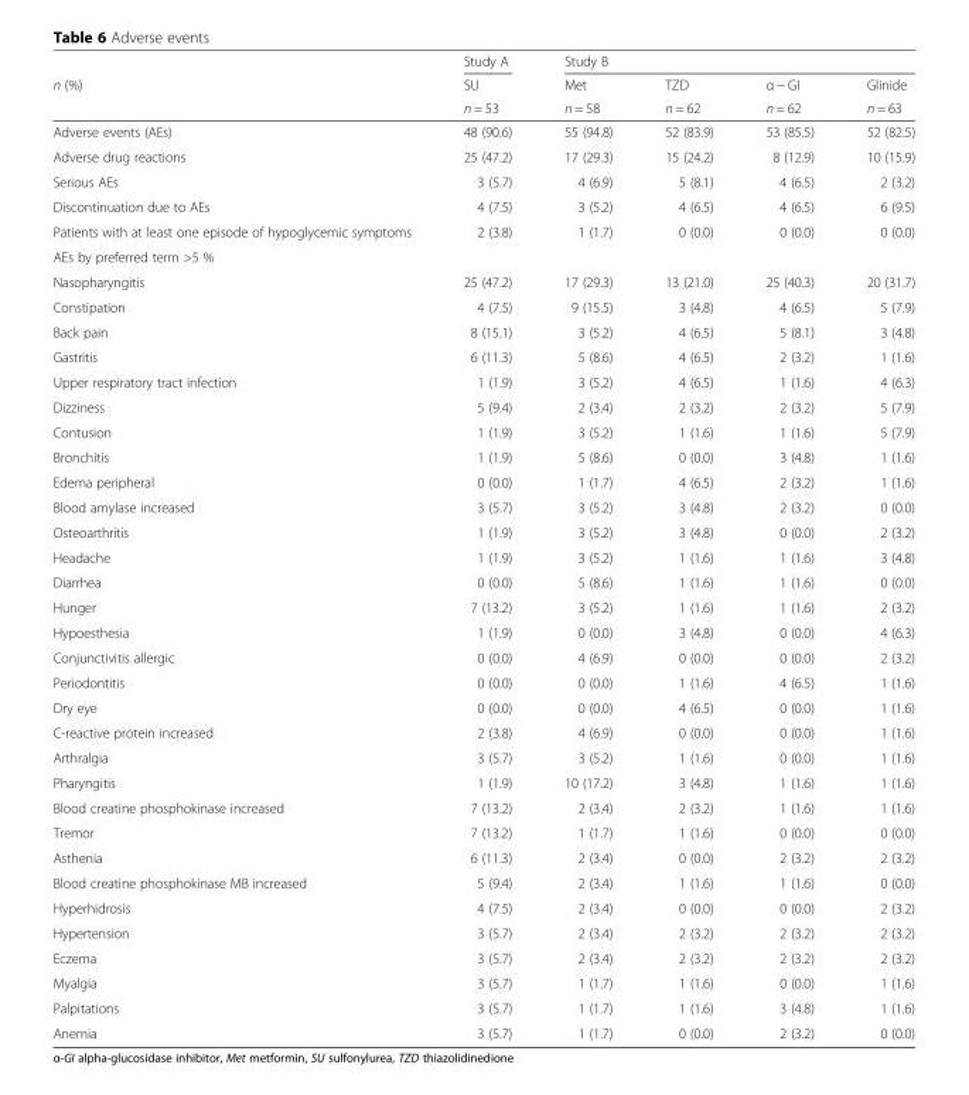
<table><thead><tr><td rowspan="3">n (%)</td><td rowspan="3">Study A SU n = 53</td><td colspan="4">Study B</td></tr><tr><td rowspan="2">Met n = 58</td><td rowspan="2">TZD n = 62</td><td rowspan="2">α − GI n = 62</td><td rowspan="2">Glinide n = 63</td></tr><tr></tr></thead><tbody><tr><td>Adverse events (AEs)</td><td>48 (90.6)</td><td>55 (94.8)</td><td>52 (83.9)</td><td>53 (85.5)</td><td>52 (82.5)</td></tr><tr><td>Adverse drug reactions</td><td>25 (47.2)</td><td>17 (29.3)</td><td>15 (24.2)</td><td>8 (12.9)</td><td>10 (15.9)</td></tr><tr><td>Serious AEs</td><td>3 (5.7)</td><td>4 (6.9)</td><td>5 (8.1)</td><td>4 (6.5)</td><td>2 (3.2)</td></tr><tr><td>Discontinuation due to AEs</td><td>4 (7.5)</td><td>3 (5.2)</td><td>4 (6.5)</td><td>4 (6.5)</td><td>6 (9.5)</td></tr><tr><td>Patients with at least one episode of hypoglycemic symptoms</td><td>2 (3.8)</td><td>1 (1.7)</td><td>0 (0.0)</td><td>0 (0.0)</td><td>0 (0.0)</td></tr><tr><td colspan="6">AEs by preferred term &gt;5 %</td></tr><tr><td>Nasopharyngitis</td><td>25 (47.2)</td><td>17 (29.3)</td><td>13 (21.0)</td><td>25 (40.3)</td><td>20 (31.7)</td></tr><tr><td>Constipation</td><td>4 (7.5)</td><td>9 (15.5)</td><td>3 (4.8)</td><td>4 (6.5)</td><td>5 (7.9)</td></tr><tr><td>Back pain</td><td>8 (15.1)</td><td>3 (5.2)</td><td>4 (6.5)</td><td>5 (8.1)</td><td>3 (4.8)</td></tr><tr><td>Gastritis</td><td>6 (11.3)</td><td>5 (8.6)</td><td>4 (6.5)</td><td>2 (3.2)</td><td>1 (1.6)</td></tr><tr><td>Upper respiratory tract infection</td><td>1 (1.9)</td><td>3 (5.2)</td><td>4 (6.5)</td><td>1 (1.6)</td><td>4 (6.3)</td></tr><tr><td>Dizziness</td><td>5 (9.4)</td><td>2 (3.4)</td><td>2 (3.2)</td><td>2 (3.2)</td><td>5 (7.9)</td></tr><tr><td>Contusion</td><td>1 (1.9)</td><td>3 (5.2)</td><td>1 (1.6)</td><td>1 (1.6)</td><td>5 (7.9)</td></tr><tr><td>Bronchitis</td><td>1 (1.9)</td><td>5 (8.6)</td><td>0 (0.0)</td><td>3 (4.8)</td><td>1 (1.6)</td></tr><tr><td>Edema peripheral</td><td>0 (0.0)</td><td>1 (1.7)</td><td>4 (6.5)</td><td>2 (3.2)</td><td>1 (1.6)</td></tr><tr><td>Blood amylase increased</td><td>3 (5.7)</td><td>3 (5.2)</td><td>3 (4.8)</td><td>2 (3.2)</td><td>0 (0.0)</td></tr><tr><td>Osteoarthritis</td><td>1 (1.9)</td><td>3 (5.2)</td><td>3 (4.8)</td><td>0 (0.0)</td><td>2 (3.2)</td></tr><tr><td>Headache</td><td>1 (1.9)</td><td>3 (5.2)</td><td>1 (1.6)</td><td>1 (1.6)</td><td>3 (4.8)</td></tr><tr><td>Diarrhea</td><td>0 (0.0)</td><td>5 (8.6)</td><td>1 (1.6)</td><td>1 (1.6)</td><td>0 (0.0)</td></tr><tr><td>Hunger</td><td>7 (13.2)</td><td>3 (5.2)</td><td>1 (1.6)</td><td>1 (1.6)</td><td>2 (3.2)</td></tr><tr><td>Hypoesthesia</td><td>1 (1.9)</td><td>0 (0.0)</td><td>3 (4.8)</td><td>0 (0.0)</td><td>4 (6.3)</td></tr><tr><td>Conjunctivitis allergic</td><td>0 (0.0)</td><td>4 (6.9)</td><td>0 (0.0)</td><td>0 (0.0)</td><td>2 (3.2)</td></tr><tr><td>Periodontitis</td><td>0 (0.0)</td><td>0 (0.0)</td><td>1 (1.6)</td><td>4 (6.5)</td><td>1 (1.6)</td></tr><tr><td>Dry eye</td><td>0 (0.0)</td><td>0 (0.0)</td><td>4 (6.5)</td><td>0 (0.0)</td><td>1 (1.6)</td></tr><tr><td>C-reactive protein increased</td><td>2 (3.8)</td><td>4 (6.9)</td><td>0 (0.0)</td><td>0 (0.0)</td><td>1 (1.6)</td></tr><tr><td>Arthralgia</td><td>3 (5.7)</td><td>3 (5.2)</td><td>1 (1.6)</td><td>0 (0.0)</td><td>1 (1.6)</td></tr><tr><td>Pharyngitis</td><td>1 (1.9)</td><td>10 (17.2)</td><td>3 (4.8)</td><td>1 (1.6)</td><td>1 (1.6)</td></tr><tr><td>Blood creatine phosphokinase increased</td><td>7 (13.2)</td><td>2 (3.4)</td><td>2 (3.2)</td><td>1 (1.6)</td><td>1 (1.6)</td></tr><tr><td>Tremor</td><td>7 (13.2)</td><td>1 (1.7)</td><td>1 (1.6)</td><td>0 (0.0)</td><td>0 (0.0)</td></tr><tr><td>Asthenia</td><td>6 (11.3)</td><td>2 (3.4)</td><td>0 (0.0)</td><td>2 (3.2)</td><td>2 (3.2)</td></tr><tr><td>Blood creatine phosphokinase MB increased</td><td>5 (9.4)</td><td>2 (3.4)</td><td>1 (1.6)</td><td>1 (1.6)</td><td>0 (0.0)</td></tr><tr><td>Hyperhidrosis</td><td>4 (7.5)</td><td>2 (3.4)</td><td>0 (0.0)</td><td>0 (0.0)</td><td>2 (3.2)</td></tr><tr><td>Hypertension</td><td>3 (5.7)</td><td>2 (3.4)</td><td>2 (3.2)</td><td>2 (3.2)</td><td>2 (3.2)</td></tr><tr><td>Eczema</td><td>3 (5.7)</td><td>2 (3.4)</td><td>2 (3.2)</td><td>2 (3.2)</td><td>2 (3.2)</td></tr><tr><td>Myalgia</td><td>3 (5.7)</td><td>1 (1.7)</td><td>1 (1.6)</td><td>0 (0.0)</td><td>1 (1.6)</td></tr><tr><td>Palpitations</td><td>3 (5.7)</td><td>1 (1.7)</td><td>1 (1.6)</td><td>3 (4.8)</td><td>1 (1.6)</td></tr><tr><td>Anemia</td><td>3 (5.7)</td><td>1 (1.7)</td><td>0 (0.0)</td><td>2 (3.2)</td><td>0 (0.0)</td></tr></tbody></table>